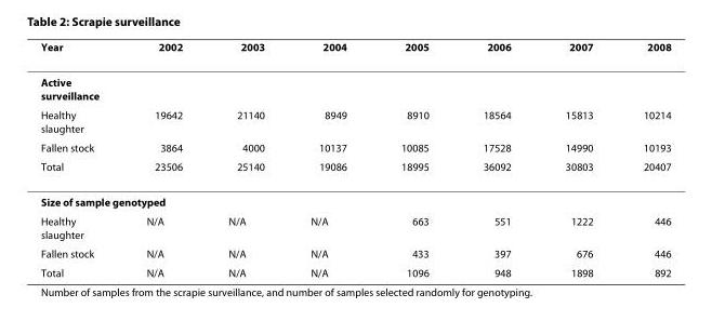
<table><thead><tr><td>Year</td><td>2002</td><td>2003</td><td>2004</td><td>2005</td><td>2006</td><td>2007</td><td>2008</td></tr></thead><tbody><tr><td colspan="8">Active surveillance</td></tr><tr><td>Healthy slaughter</td><td>19642</td><td>21140</td><td>8949</td><td>8910</td><td>18564</td><td>15813</td><td>10214</td></tr><tr><td>Fallen stock</td><td>3864</td><td>4000</td><td>10137</td><td>10085</td><td>17528</td><td>14990</td><td>10193</td></tr><tr><td>Total</td><td>23506</td><td>25140</td><td>19086</td><td>18995</td><td>36092</td><td>30803</td><td>20407</td></tr><tr><td colspan="8">Size of sample genotyped</td></tr><tr><td>Healthy slaughter</td><td>N/A</td><td>N/A</td><td>N/A</td><td>663</td><td>551</td><td>1222</td><td>446</td></tr><tr><td>Fallen stock</td><td>N/A</td><td>N/A</td><td>N/A</td><td>433</td><td>397</td><td>676</td><td>446</td></tr><tr><td>Total</td><td>N/A</td><td>N/A</td><td>N/A</td><td>1096</td><td>948</td><td>1898</td><td>892</td></tr></tbody></table>